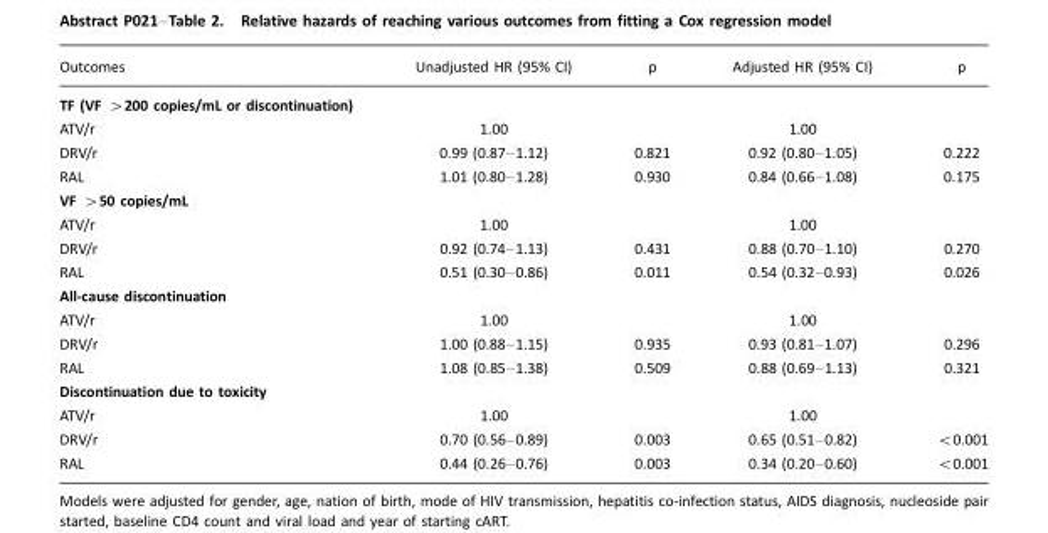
<table><thead><tr><td>Outcomes</td><td>Unadjusted HR (95% CI)</td><td>p</td><td>Adjusted HR (95% CI)</td><td>p</td></tr></thead><tbody><tr><td colspan="5">TF (VF &gt;200 copies/mL or discontinuation)</td></tr><tr><td>ATV/r</td><td>1.00</td><td></td><td>1.00</td><td></td></tr><tr><td>DRV/r</td><td>0.99 (0.87–1.12)</td><td>0.821</td><td>0.92 (0.80–1.05)</td><td>0.222</td></tr><tr><td>RAL</td><td>1.01 (0.80–1.28)</td><td>0.930</td><td>0.84 (0.66–1.08)</td><td>0.175</td></tr><tr><td colspan="5">VF &gt;50 copies/mL</td></tr><tr><td>ATV/r</td><td>1.00</td><td></td><td>1.00</td><td></td></tr><tr><td>DRV/r</td><td>0.92 (0.74–1.13)</td><td>0.431</td><td>0.88 (0.70–1.10)</td><td>0.270</td></tr><tr><td>RAL</td><td>0.51 (0.30–0.86)</td><td>0.011</td><td>0.54 (0.32–0.93)</td><td>0.026</td></tr><tr><td colspan="5">All-cause discontinuation</td></tr><tr><td>ATV/r</td><td>1.00</td><td></td><td>1.00</td><td></td></tr><tr><td>DRV/r</td><td>1.00 (0.88–1.15)</td><td>0.935</td><td>0.93 (0.81–1.07)</td><td>0.296</td></tr><tr><td>RAL</td><td>1.08 (0.85–1.38)</td><td>0.509</td><td>0.88 (0.69–1.13)</td><td>0.321</td></tr><tr><td colspan="5">Discontinuation due to toxicity</td></tr><tr><td>ATV/r</td><td>1.00</td><td></td><td>1.00</td><td></td></tr><tr><td>DRV/r</td><td>0.70 (0.56–0.89)</td><td>0.003</td><td>0.65 (0.51–0.82)</td><td>&lt;0.001</td></tr><tr><td>RAL</td><td>0.44 (0.26–0.76)</td><td>0.003</td><td>0.34 (0.20–0.60)</td><td>&lt;0.001</td></tr></tbody></table>